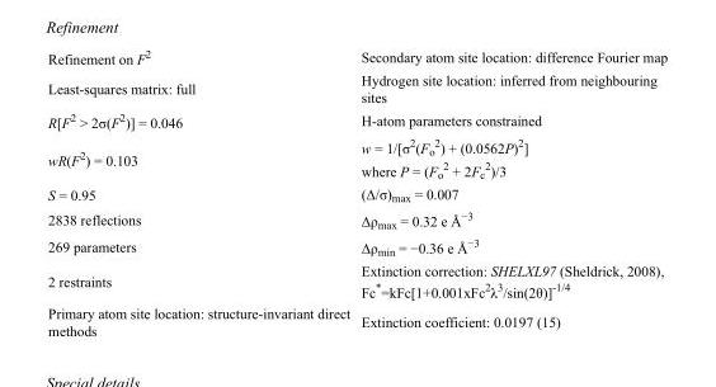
<table><tbody><tr><td>Refinement on F<sup>2</sup></td><td>Secondary atom site location: difference Fourier map</td></tr><tr><td>Least-squares matrix: full</td><td>Hydrogen site location: inferred from neighbouring sites</td></tr><tr><td>R[F<sup>2</sup> &gt; 2σ(F<sup>2</sup>)] = 0.046</td><td>H-atom parameters constrained</td></tr><tr><td>wR(F<sup>2</sup>) = 0.103</td><td>w = 1/[σ<sup>2</sup>(F<sub>o</sub> <sup>2</sup>) + (0.0562P)<sup>2</sup>] where P = (F<sub>o</sub> <sup>2</sup> + 2F<sub>c</sub> <sup>2</sup>)/3</td></tr><tr><td>S = 0.95</td><td>(Δ/σ)<sub>max</sub> = 0.007</td></tr><tr><td>2838 reflections</td><td>Δρ<sub>max</sub> = 0.32 e Å<sup>−3</sup></td></tr><tr><td>269 parameters</td><td>Δρ<sub>min</sub> = −0.36 e Å<sup>−3</sup></td></tr><tr><td>2 restraints</td><td>Extinction correction: SHELXL97 (Sheldrick, 2008), Fc*=kFc[1+0.001xFc<sup>2</sup>λ<sup>3</sup>/sin(2θ)]<sup>-1/4</sup></td></tr><tr><td>Primary atom site location: structure-invariant direct methods</td><td>Extinction coefficient: 0.0197 (15)</td></tr></tbody></table>